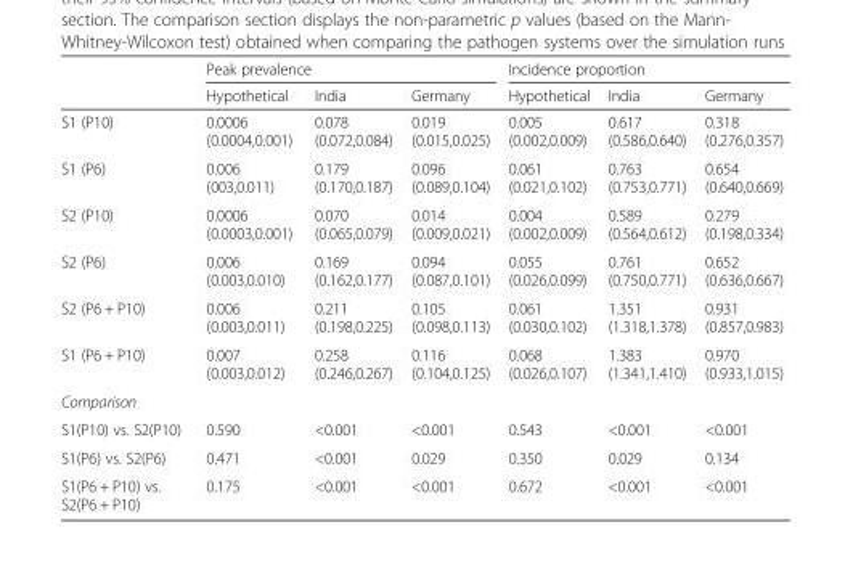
<table><thead><tr><td rowspan="2"></td><td colspan="3">Peak prevalence</td><td colspan="3">Incidence proportion</td></tr><tr><td>Hypothetical</td><td>India</td><td>Germany</td><td>Hypothetical</td><td>India</td><td>Germany</td></tr></thead><tbody><tr><td>S1 (P10)</td><td>0.0006 (0.0004,0.001)</td><td>0.078 (0.072,0.084)</td><td>0.019 (0.015,0.025)</td><td>0.005 (0.002,0.009)</td><td>0.617 (0.586,0.640)</td><td>0.318 (0.276,0.357)</td></tr><tr><td>S1 (P6)</td><td>0.006 (003,0.011)</td><td>0.179 (0.170,0.187)</td><td>0.096 (0.089,0.104)</td><td>0.061 (0.021,0.102)</td><td>0.763 (0.753,0.771)</td><td>0.654 (0.640,0.669)</td></tr><tr><td>S2 (P10)</td><td>0.0006 (0.0003,0.001)</td><td>0.070 (0.065,0.079)</td><td>0.014 (0.009,0.021)</td><td>0.004 (0.002,0.009)</td><td>0.589 (0.564,0.612)</td><td>0.279 (0.198,0.334)</td></tr><tr><td>S2 (P6)</td><td>0.006 (0.003,0.010)</td><td>0.169 (0.162,0.177)</td><td>0.094 (0.087,0.101)</td><td>0.055 (0.026,0.099)</td><td>0.761 (0.750,0.771)</td><td>0.652 (0.636,0.667)</td></tr><tr><td>S2 (P6 + P10)</td><td>0.006 (0.003,0.011)</td><td>0.211 (0.198,0.225)</td><td>0.105 (0.098,0.113)</td><td>0.061 (0.030,0.102)</td><td>1.351 (1.318,1.378)</td><td>0.931 (0.857,0.983)</td></tr><tr><td>S1 (P6 + P10)</td><td>0.007 (0.003,0.012)</td><td>0.258 (0.246,0.267)</td><td>0.116 (0.104,0.125)</td><td>0.068 (0.026,0.107)</td><td>1.383 (1.341,1.410)</td><td>0.970 (0.933,1.015)</td></tr><tr><td colspan="7">Comparison</td></tr><tr><td>S1(P10) vs. S2(P10)</td><td>0.590</td><td>&lt;0.001</td><td>&lt;0.001</td><td>0.543</td><td>&lt;0.001</td><td>&lt;0.001</td></tr><tr><td>S1(P6) vs. S2(P6)</td><td>0.471</td><td>&lt;0.001</td><td>0.029</td><td>0.350</td><td>0.029</td><td>0.134</td></tr><tr><td>S1(P6 + P10) vs. S2(P6 + P10)</td><td>0.175</td><td>&lt;0.001</td><td>&lt;0.001</td><td>0.672</td><td>&lt;0.001</td><td>&lt;0.001</td></tr></tbody></table>